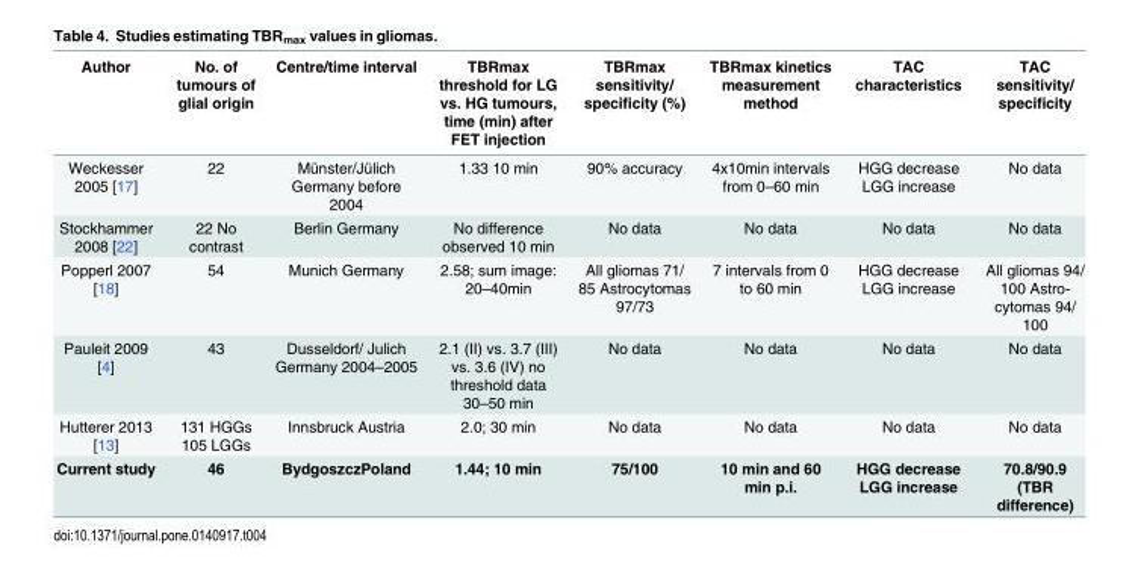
<table><thead><tr><td>Author</td><td>No. of tumours of glial origin</td><td>Centre/time interval</td><td>TBRmax threshold for LG vs. HG tumours, time (min) after FET injection</td><td>TBRmax sensitivity/ specificity (%)</td><td>TBRmax kinetics measurement method</td><td>TAC characteristics</td><td>TAC sensitivity/ specificity</td></tr></thead><tbody><tr><td>Weckesser 2005 [17]</td><td>22</td><td>Münster/Jülich Germany before 2004</td><td>1.33 10 min</td><td>90% accuracy</td><td>4x10min intervals from 0–60 min</td><td>HGG decrease LGG increase</td><td>No data</td></tr><tr><td>Stockhammer 2008 [22]</td><td>22 No contrast</td><td>Berlin Germany</td><td>No difference observed 10 min</td><td>No data</td><td>No data</td><td>No data</td><td>No data</td></tr><tr><td>Popperl 2007 [18]</td><td>54</td><td>Munich Germany</td><td>2.58; sum image: 20–40min</td><td>All gliomas 71/ 85 Astrocytomas 97/73</td><td>7 intervals from 0 to 60 min</td><td>HGG decrease LGG increase</td><td>All gliomas 94/ 100 Astro- cytomas 94/ 100</td></tr><tr><td>Pauleit 2009 [4]</td><td>43</td><td>Dusseldorf/ Julich Germany 2004–2005</td><td>2.1 (II) vs. 3.7 (III) vs. 3.6 (IV) no threshold data 30–50 min</td><td>No data</td><td>No data</td><td>No data</td><td>No data</td></tr><tr><td>Hutterer 2013 [13]</td><td>131 HGGs 105 LGGs</td><td>Innsbruck Austria</td><td>2.0; 30 min</td><td>No data</td><td>No data</td><td>No data</td><td>No data</td></tr><tr><td>Current study</td><td>46</td><td>BydgoszczPoland</td><td>1.44; 10 min</td><td>75/100</td><td>10 min and 60 min p.i.</td><td>HGG decrease LGG increase</td><td>70.8/90.9 (TBR difference)</td></tr></tbody></table>